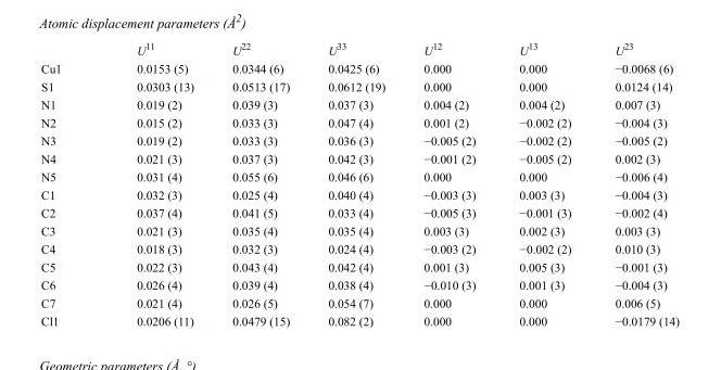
<table><thead><tr><td></td><td>U<sup>11</sup></td><td>U<sup>22</sup></td><td>U<sup>33</sup></td><td>U<sup>12</sup></td><td>U<sup>13</sup></td><td>U<sup>23</sup></td></tr></thead><tbody><tr><td>Cu1</td><td>0.0153 (5)</td><td>0.0344 (6)</td><td>0.0425 (6)</td><td>0.000</td><td>0.000</td><td>−0.0068 (6)</td></tr><tr><td>S1</td><td>0.0303 (13)</td><td>0.0513 (17)</td><td>0.0612 (19)</td><td>0.000</td><td>0.000</td><td>0.0124 (14)</td></tr><tr><td>N1</td><td>0.019 (2)</td><td>0.039 (3)</td><td>0.037 (3)</td><td>0.004 (2)</td><td>0.004 (2)</td><td>0.007 (3)</td></tr><tr><td>N2</td><td>0.015 (2)</td><td>0.033 (3)</td><td>0.047 (4)</td><td>0.001 (2)</td><td>−0.002 (2)</td><td>−0.004 (3)</td></tr><tr><td>N3</td><td>0.019 (2)</td><td>0.033 (3)</td><td>0.036 (3)</td><td>−0.005 (2)</td><td>−0.002 (2)</td><td>−0.005 (2)</td></tr><tr><td>N4</td><td>0.021 (3)</td><td>0.037 (3)</td><td>0.042 (3)</td><td>−0.001 (2)</td><td>−0.005 (2)</td><td>0.002 (3)</td></tr><tr><td>N5</td><td>0.031 (4)</td><td>0.055 (6)</td><td>0.046 (6)</td><td>0.000</td><td>0.000</td><td>−0.006 (4)</td></tr><tr><td>C1</td><td>0.032 (3)</td><td>0.025 (4)</td><td>0.040 (4)</td><td>−0.003 (3)</td><td>0.003 (3)</td><td>−0.004 (3)</td></tr><tr><td>C2</td><td>0.037 (4)</td><td>0.041 (5)</td><td>0.033 (4)</td><td>−0.005 (3)</td><td>−0.001 (3)</td><td>−0.002 (4)</td></tr><tr><td>C3</td><td>0.021 (3)</td><td>0.035 (4)</td><td>0.035 (4)</td><td>0.003 (3)</td><td>0.002 (3)</td><td>0.003 (3)</td></tr><tr><td>C4</td><td>0.018 (3)</td><td>0.032 (3)</td><td>0.024 (4)</td><td>−0.003 (2)</td><td>−0.002 (2)</td><td>0.010 (3)</td></tr><tr><td>C5</td><td>0.022 (3)</td><td>0.043 (4)</td><td>0.042 (4)</td><td>0.001 (3)</td><td>0.005 (3)</td><td>−0.001 (3)</td></tr><tr><td>C6</td><td>0.026 (4)</td><td>0.039 (4)</td><td>0.038 (4)</td><td>−0.010 (3)</td><td>0.001 (3)</td><td>−0.004 (3)</td></tr><tr><td>C7</td><td>0.021 (4)</td><td>0.026 (5)</td><td>0.054 (7)</td><td>0.000</td><td>0.000</td><td>0.006 (5)</td></tr><tr><td>Cl1</td><td>0.0206 (11)</td><td>0.0479 (15)</td><td>0.082 (2)</td><td>0.000</td><td>0.000</td><td>−0.0179 (14)</td></tr></tbody></table>